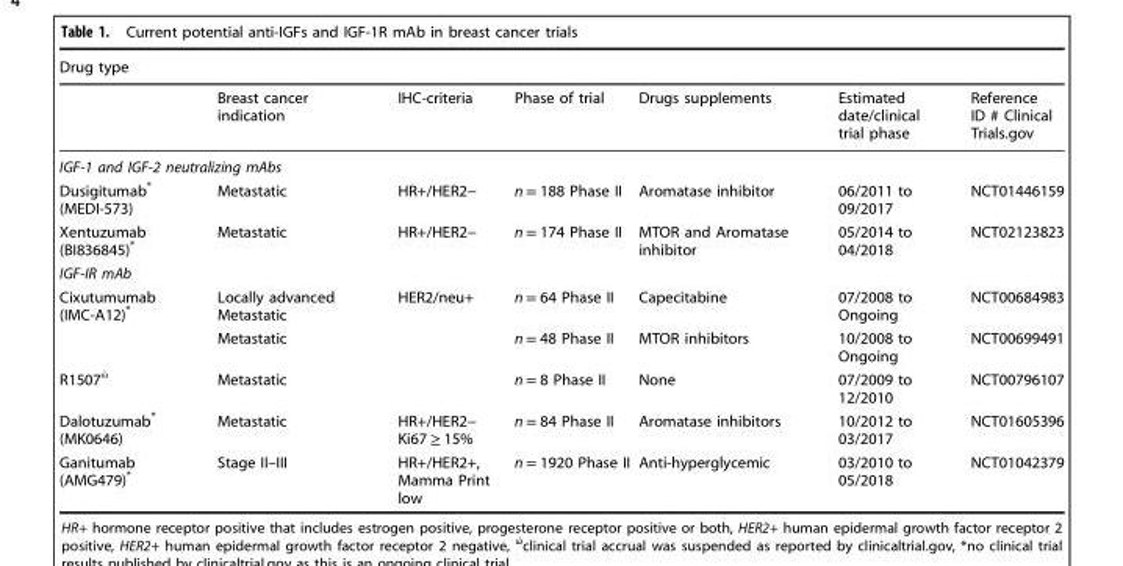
<table><thead><tr><td colspan="7">Drug type</td></tr><tr><td></td><td>Breast cancer indication</td><td>IHC-criteria</td><td>Phase of trial</td><td>Drugs supplements</td><td>Estimated date/clinical trial phase</td><td>Reference ID # Clinical Trials.gov</td></tr></thead><tbody><tr><td colspan="7">IGF-1 and IGF-2 neutralizing mAbs</td></tr><tr><td>Dusigitumab* (MEDI-573)</td><td>Metastatic</td><td>HR+/HER2−</td><td>n = 188 Phase II</td><td>Aromatase inhibitor</td><td>06/2011 to 09/2017</td><td>NCT01446159</td></tr><tr><td>Xentuzumab (BI836845)*</td><td>Metastatic</td><td>HR+/HER2−</td><td>n = 174 Phase II</td><td>MTOR and Aromatase inhibitor</td><td>05/2014 to 04/2018</td><td>NCT02123823</td></tr><tr><td colspan="7">IGF-IR mAb</td></tr><tr><td rowspan="2">Cixutumumab (IMC-A12)*</td><td>Locally advanced Metastatic</td><td>HER2/neu+</td><td>n = 64 Phase II</td><td>Capecitabine</td><td>07/2008 to Ongoing</td><td>NCT00684983</td></tr><tr><td>Metastatic</td><td></td><td>n = 48 Phase II</td><td>MTOR inhibitors</td><td>10/2008 to Ongoing</td><td>NCT00699491</td></tr><tr><td>R1507<sup>ώ</sup></td><td>Metastatic</td><td></td><td>n = 8 Phase II</td><td>None</td><td>07/2009 to 12/2010</td><td>NCT00796107</td></tr><tr><td>Dalotuzumab* (MK0646)</td><td>Metastatic</td><td>HR+/HER2− Ki67 ≥ 15%</td><td>n = 84 Phase II</td><td>Aromatase inhibitors</td><td>10/2012 to 03/2017</td><td>NCT01605396</td></tr><tr><td>Ganitumab (AMG479)*</td><td>Stage II–III</td><td>HR+/HER2+, Mamma Print low</td><td>n = 1920 Phase II</td><td>Anti-hyperglycemic</td><td>03/2010 to 05/2018</td><td>NCT01042379</td></tr></tbody></table>